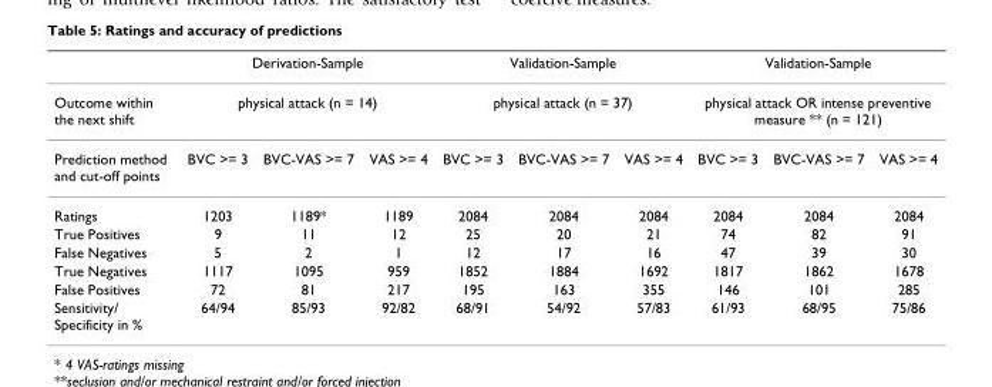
<table><thead><tr><td rowspan="3">Outcome within the next shift Prediction method and cut-off points</td><td rowspan="2" colspan="3">Derivation-Sample physical attack (n = 14)</td><td rowspan="2" colspan="3">Validation-Sample physical attack (n = 37)</td><td rowspan="2" colspan="3">Validation-Sample physical attack OR intense preventive measure ** (n = 121)</td></tr><tr></tr><tr><td>BVC &gt;= 3</td><td>BVC-VAS &gt;= 7</td><td>VAS &gt;= 4</td><td>BVC &gt;= 3</td><td>BVC-VAS &gt;= 7</td><td>VAS &gt;= 4</td><td>BVC &gt;= 3</td><td>BVC-VAS &gt;= 7</td><td>VAS &gt;= 4</td></tr></thead><tbody><tr><td>Ratings</td><td>1203</td><td>1189*</td><td>1189</td><td>2084</td><td>2084</td><td>2084</td><td>2084</td><td>2084</td><td>2084</td></tr><tr><td>True Positives</td><td>9</td><td>11</td><td>12</td><td>25</td><td>20</td><td>21</td><td>74</td><td>82</td><td>91</td></tr><tr><td>False Negatives</td><td>5</td><td>2</td><td>1</td><td>12</td><td>17</td><td>16</td><td>47</td><td>39</td><td>30</td></tr><tr><td>True Negatives</td><td>1117</td><td>1095</td><td>959</td><td>1852</td><td>1884</td><td>1692</td><td>1817</td><td>1862</td><td>1678</td></tr><tr><td>False Positives</td><td>72</td><td>81</td><td>217</td><td>195</td><td>163</td><td>355</td><td>146</td><td>101</td><td>285</td></tr><tr><td>Sensitivity/ Specificity in %</td><td>64/94</td><td>85/93</td><td>92/82</td><td>68/91</td><td>54/92</td><td>57/83</td><td>61/93</td><td>68/95</td><td>75/86</td></tr></tbody></table>